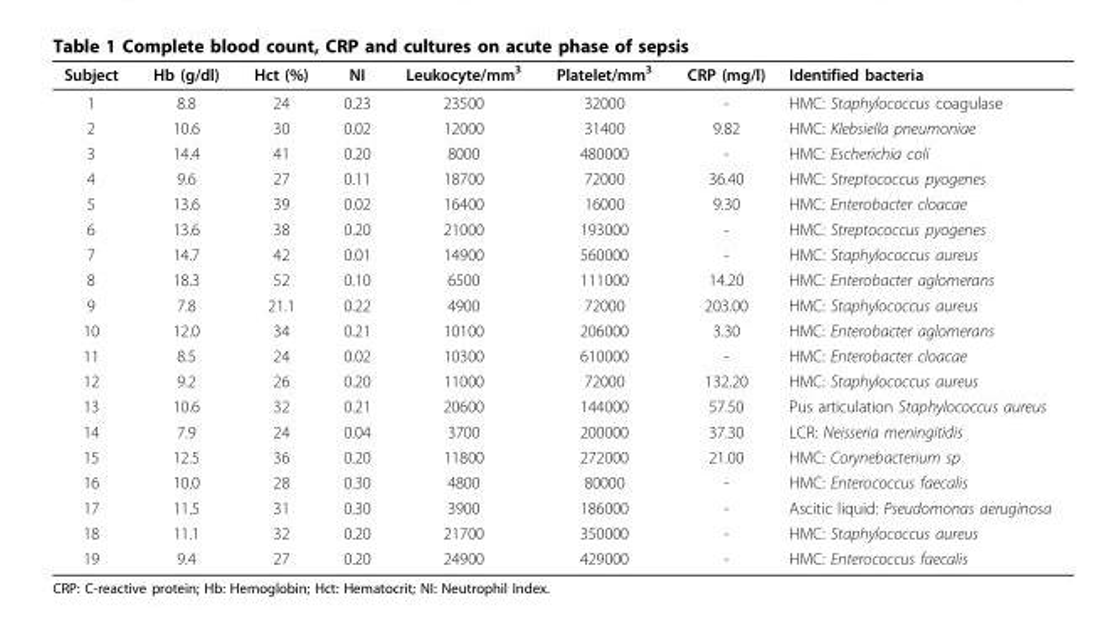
<table><thead><tr><td>Subject</td><td>Hb (g/dl)</td><td>Hct (%)</td><td>NI</td><td>Leukocyte/mm<sup>3</sup></td><td>Platelet/mm<sup>3</sup></td><td>CRP (mg/l)</td><td>Identified bacteria</td></tr></thead><tbody><tr><td>1</td><td>8.8</td><td>24</td><td>0.23</td><td>23500</td><td>32000</td><td>-</td><td>HMC: Staphylococcus coagulase</td></tr><tr><td>2</td><td>10.6</td><td>30</td><td>0.02</td><td>12000</td><td>31400</td><td>9.82</td><td>HMC: Klebsiella pneumoniae</td></tr><tr><td>3</td><td>14.4</td><td>41</td><td>0.20</td><td>8000</td><td>480000</td><td>-</td><td>HMC: Escherichia coli</td></tr><tr><td>4</td><td>9.6</td><td>27</td><td>0.11</td><td>18700</td><td>72000</td><td>36.40</td><td>HMC: Streptococcus pyogenes</td></tr><tr><td>5</td><td>13.6</td><td>39</td><td>0.02</td><td>16400</td><td>16000</td><td>9.30</td><td>HMC: Enterobacter cloacae</td></tr><tr><td>6</td><td>13.6</td><td>38</td><td>0.20</td><td>21000</td><td>193000</td><td>-</td><td>HMC: Streptococcus pyogenes</td></tr><tr><td>7</td><td>14.7</td><td>42</td><td>0.01</td><td>14900</td><td>560000</td><td>-</td><td>HMC: Staphylococcus aureus</td></tr><tr><td>8</td><td>18.3</td><td>52</td><td>0.10</td><td>6500</td><td>111000</td><td>14.20</td><td>HMC: Enterobacter aglomerans</td></tr><tr><td>9</td><td>7.8</td><td>21.1</td><td>0.22</td><td>4900</td><td>72000</td><td>203.00</td><td>HMC: Staphylococcus aureus</td></tr><tr><td>10</td><td>12.0</td><td>34</td><td>0.21</td><td>10100</td><td>206000</td><td>3.30</td><td>HMC: Enterobacter aglomerans</td></tr><tr><td>11</td><td>8.5</td><td>24</td><td>0.02</td><td>10300</td><td>610000</td><td>-</td><td>HMC: Enterobacter cloacae</td></tr><tr><td>12</td><td>9.2</td><td>26</td><td>0.20</td><td>11000</td><td>72000</td><td>132.20</td><td>HMC: Staphylococcus aureus</td></tr><tr><td>13</td><td>10.6</td><td>32</td><td>0.21</td><td>20600</td><td>144000</td><td>57.50</td><td>Pus articulation Staphylococcus aureus</td></tr><tr><td>14</td><td>7.9</td><td>24</td><td>0.04</td><td>3700</td><td>200000</td><td>37.30</td><td>LCR: Neisseria meningitidis</td></tr><tr><td>15</td><td>12.5</td><td>36</td><td>0.20</td><td>11800</td><td>272000</td><td>21.00</td><td>HMC: Corynebacterium sp</td></tr><tr><td>16</td><td>10.0</td><td>28</td><td>0.30</td><td>4800</td><td>80000</td><td>-</td><td>HMC: Enterococcus faecalis</td></tr><tr><td>17</td><td>11.5</td><td>31</td><td>0.30</td><td>3900</td><td>186000</td><td>-</td><td>Ascitic liquid: Pseudomonas aeruginosa</td></tr><tr><td>18</td><td>11.1</td><td>32</td><td>0.20</td><td>21700</td><td>350000</td><td>-</td><td>HMC: Staphylococcus aureus</td></tr><tr><td>19</td><td>9.4</td><td>27</td><td>0.20</td><td>24900</td><td>429000</td><td>-</td><td>HMC: Enterococcus faecalis</td></tr></tbody></table>